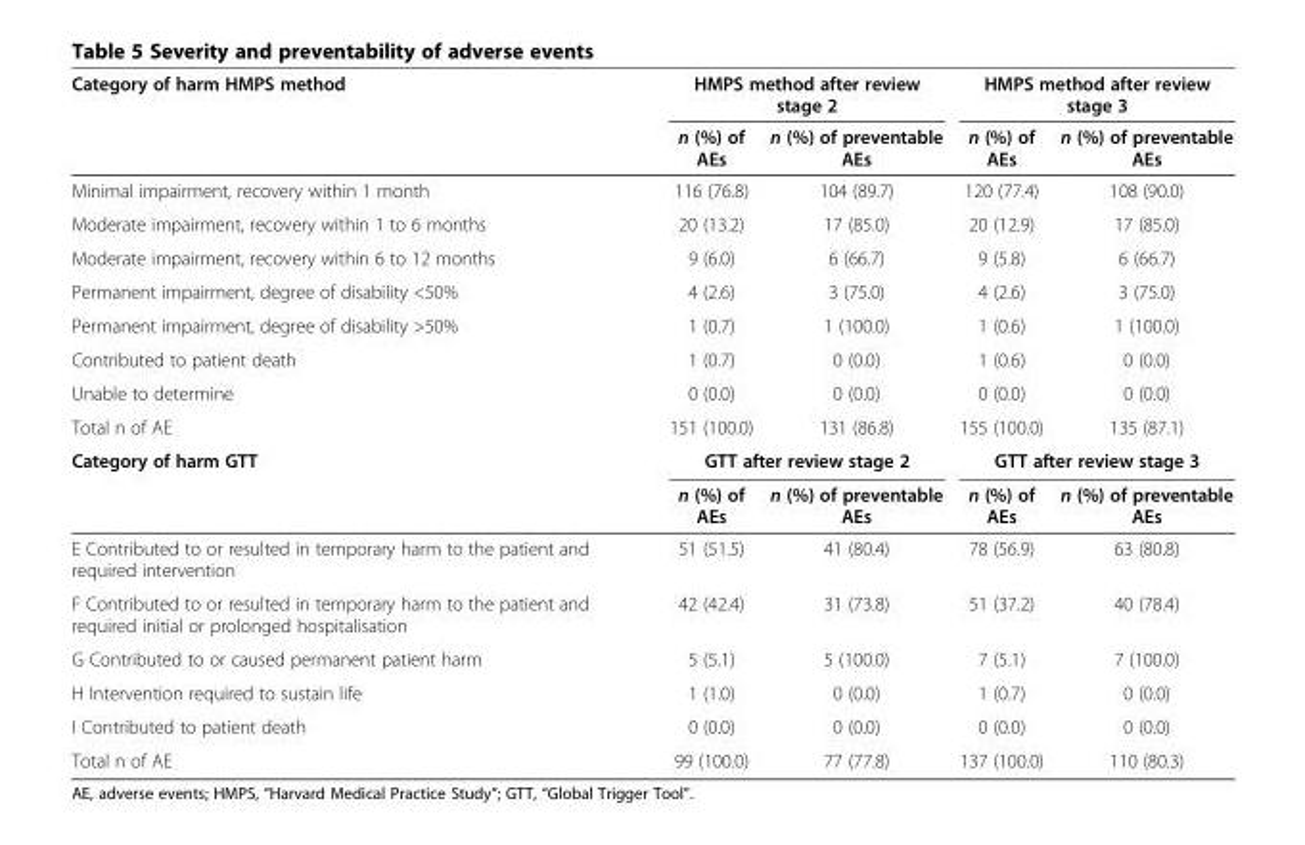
<table><thead><tr><td rowspan="2">Category of harm HMPS method</td><td colspan="2">HMPS method after review stage 2</td><td colspan="2">HMPS method after review stage 3</td></tr><tr><td>n (%) of AEs</td><td>n (%) of preventable AEs</td><td>n (%) of AEs</td><td>n (%) of preventable AEs</td></tr></thead><tbody><tr><td>Minimal impairment, recovery within 1 month</td><td>116 (76.8)</td><td>104 (89.7)</td><td>120 (77.4)</td><td>108 (90.0)</td></tr><tr><td>Moderate impairment, recovery within 1 to 6 months</td><td>20 (13.2)</td><td>17 (85.0)</td><td>20 (12.9)</td><td>17 (85.0)</td></tr><tr><td>Moderate impairment, recovery within 6 to 12 months</td><td>9 (6.0)</td><td>6 (66.7)</td><td>9 (5.8)</td><td>6 (66.7)</td></tr><tr><td>Permanent impairment, degree of disability &lt;50%</td><td>4 (2.6)</td><td>3 (75.0)</td><td>4 (2.6)</td><td>3 (75.0)</td></tr><tr><td>Permanent impairment, degree of disability &gt;50%</td><td>1 (0.7)</td><td>1 (100.0)</td><td>1 (0.6)</td><td>1 (100.0)</td></tr><tr><td>Contributed to patient death</td><td>1 (0.7)</td><td>0 (0.0)</td><td>1 (0.6)</td><td>0 (0.0)</td></tr><tr><td>Unable to determine</td><td>0 (0.0)</td><td>0 (0.0)</td><td>0 (0.0)</td><td>0 (0.0)</td></tr><tr><td>Total n of AE</td><td>151 (100.0)</td><td>131 (86.8)</td><td>155 (100.0)</td><td>135 (87.1)</td></tr><tr><td rowspan="2">Category of harm GTT</td><td colspan="2">GTT after review stage 2</td><td colspan="2">GTT after review stage 3</td></tr><tr><td>n (%) of AEs</td><td>n (%) of preventable AEs</td><td>n (%) of AEs</td><td>n (%) of preventable AEs</td></tr><tr><td>E Contributed to or resulted in temporary harm to the patient and required intervention</td><td>51 (51.5)</td><td>41 (80.4)</td><td>78 (56.9)</td><td>63 (80.8)</td></tr><tr><td>F Contributed to or resulted in temporary harm to the patient and required initial or prolonged hospitalisation</td><td>42 (42.4)</td><td>31 (73.8)</td><td>51 (37.2)</td><td>40 (78.4)</td></tr><tr><td>G Contributed to or caused permanent patient harm</td><td>5 (5.1)</td><td>5 (100.0)</td><td>7 (5.1)</td><td>7 (100.0)</td></tr><tr><td>H Intervention required to sustain life</td><td>1 (1.0)</td><td>0 (0.0)</td><td>1 (0.7)</td><td>0 (0.0)</td></tr><tr><td>I Contributed to patient death</td><td>0 (0.0)</td><td>0 (0.0)</td><td>0 (0.0)</td><td>0 (0.0)</td></tr><tr><td>Total n of AE</td><td>99 (100.0)</td><td>77 (77.8)</td><td>137 (100.0)</td><td>110 (80.3)</td></tr></tbody></table>